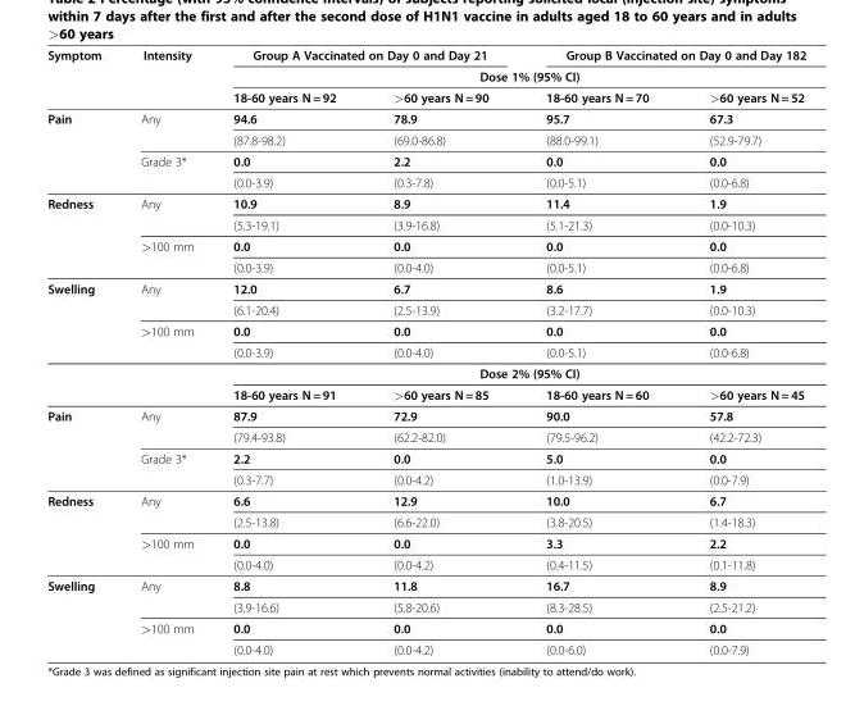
<table><thead><tr><td rowspan="3">Symptom</td><td rowspan="3">Intensity</td><td colspan="2">Group A Vaccinated on Day 0 and Day 21</td><td colspan="2">Group B Vaccinated on Day 0 and Day 182</td></tr><tr><td colspan="4">Dose 1% (95% CI)</td></tr><tr><td>18-60 years N = 92</td><td>&gt;60 years N = 90</td><td>18-60 years N = 70</td><td>&gt;60 years N = 52</td></tr></thead><tbody><tr><td rowspan="4">Pain</td><td rowspan="2">Any</td><td>94.6</td><td>78.9</td><td>95.7</td><td>67.3</td></tr><tr><td>(87.8-98.2)</td><td>(69.0-86.8)</td><td>(88.0-99.1)</td><td>(52.9-79.7)</td></tr><tr><td rowspan="2">Grade 3*</td><td>0.0</td><td>2.2</td><td>0.0</td><td>0.0</td></tr><tr><td>(0.0-3.9)</td><td>(0.3-7.8)</td><td>(0.0-5.1)</td><td>(0.0-6.8)</td></tr><tr><td rowspan="4">Redness</td><td rowspan="2">Any</td><td>10.9</td><td>8.9</td><td>11.4</td><td>1.9</td></tr><tr><td>(5.3-19.1)</td><td>(3.9-16.8)</td><td>(5.1-21.3)</td><td>(0.0-10.3)</td></tr><tr><td rowspan="2">&gt;100 mm</td><td>0.0</td><td>0.0</td><td>0.0</td><td>0.0</td></tr><tr><td>(0.0-3.9)</td><td>(0.0-4.0)</td><td>(0.0-5.1)</td><td>(0.0-6.8)</td></tr><tr><td rowspan="6">Swelling</td><td rowspan="2">Any</td><td>12.0</td><td>6.7</td><td>8.6</td><td>1.9</td></tr><tr><td>(6.1-20.4)</td><td>(2.5-13.9)</td><td>(3.2-17.7)</td><td>(0.0-10.3)</td></tr><tr><td rowspan="2">&gt;100 mm</td><td>0.0</td><td>0.0</td><td>0.0</td><td>0.0</td></tr><tr><td>(0.0-3.9)</td><td>(0.0-4.0)</td><td>(0.0-5.1)</td><td>(0.0-6.8)</td></tr><tr><td rowspan="2"></td><td colspan="4">Dose 2% (95% CI)</td></tr><tr><td>18-60 years N = 91</td><td>&gt;60 years N = 85</td><td>18-60 years N = 60</td><td>&gt;60 years N = 45</td></tr><tr><td rowspan="4">Pain</td><td rowspan="2">Any</td><td>87.9</td><td>72.9</td><td>90.0</td><td>57.8</td></tr><tr><td>(79.4-93.8)</td><td>(62.2-82.0)</td><td>(79.5-96.2)</td><td>(42.2-72.3)</td></tr><tr><td rowspan="2">Grade 3*</td><td>2.2</td><td>0.0</td><td>5.0</td><td>0.0</td></tr><tr><td>(0.3-7.7)</td><td>(0.0-4.2)</td><td>(1.0-13.9)</td><td>(0.0-7.9)</td></tr><tr><td rowspan="4">Redness</td><td rowspan="2">Any</td><td>6.6</td><td>12.9</td><td>10.0</td><td>6.7</td></tr><tr><td>(2.5-13.8)</td><td>(6.6-22.0)</td><td>(3.8-20.5)</td><td>(1.4-18.3)</td></tr><tr><td rowspan="2">&gt;100 mm</td><td>0.0</td><td>0.0</td><td>3.3</td><td>2.2</td></tr><tr><td>(0.0-4.0)</td><td>(0.0-4.2)</td><td>(0.4-11.5)</td><td>(0.1-11.8)</td></tr><tr><td rowspan="4">Swelling</td><td rowspan="2">Any</td><td>8.8</td><td>11.8</td><td>16.7</td><td>8.9</td></tr><tr><td>(3.9-16.6)</td><td>(5.8-20.6)</td><td>(8.3-28.5)</td><td>(2.5-21.2)</td></tr><tr><td rowspan="2">&gt;100 mm</td><td>0.0</td><td>0.0</td><td>0.0</td><td>0.0</td></tr><tr><td>(0.0-4.0)</td><td>(0.0-4.2)</td><td>(0.0-6.0)</td><td>(0.0-7.9)</td></tr></tbody></table>